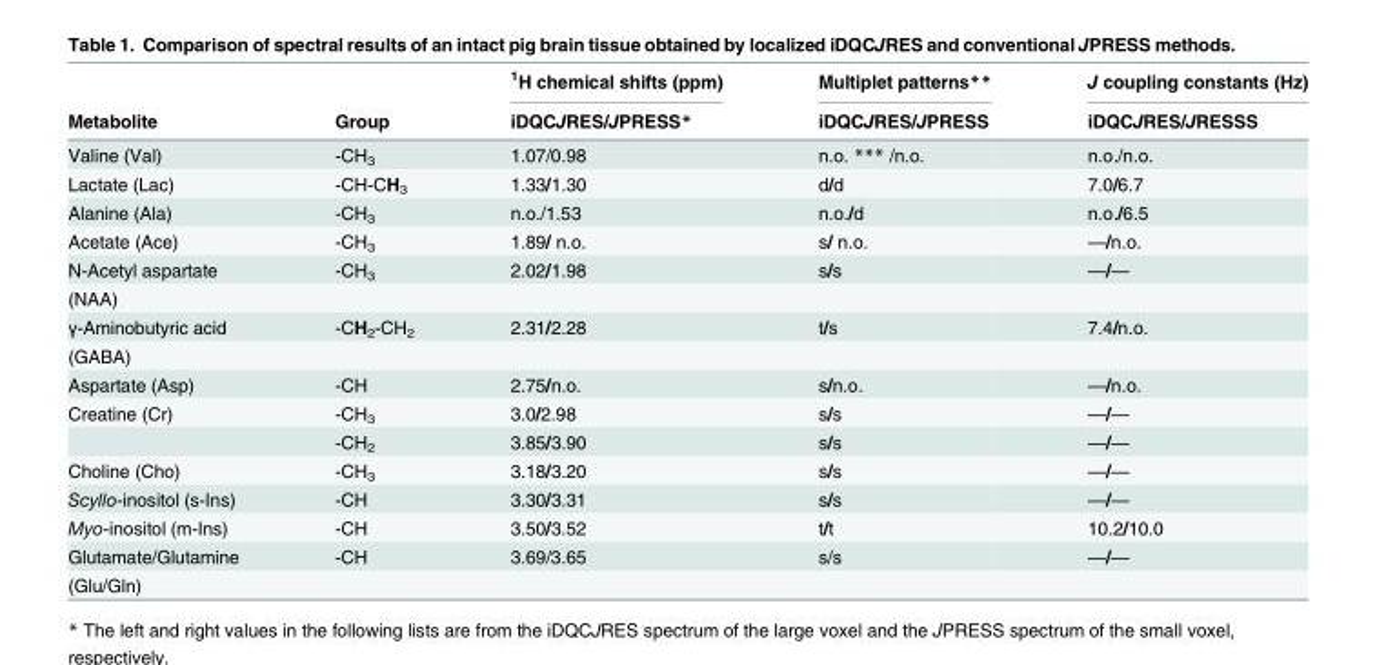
<table><thead><tr><td rowspan="2">Metabolite</td><td rowspan="2">Group</td><td rowspan="2">1H chemical shifts (ppm) iDQCJRES/JPRESS*</td><td rowspan="2">Multiplet patterns** iDQCJRES/JPRESS</td><td rowspan="2">J coupling constants (Hz) iDQCJRES/JRESSS</td></tr><tr></tr></thead><tbody><tr><td>Valine (Val)</td><td>-CH<sub>3</sub></td><td>1.07/0.98</td><td>n.o. *** /n.o.</td><td>n.o./n.o.</td></tr><tr><td>Lactate (Lac)</td><td>-CH-CH<sub>3</sub></td><td>1.33/1.30</td><td>d/d</td><td>7.0/6.7</td></tr><tr><td>Alanine (Ala)</td><td>-CH<sub>3</sub></td><td>n.o./1.53</td><td>n.o./d</td><td>n.o./6.5</td></tr><tr><td>Acetate (Ace)</td><td>-CH<sub>3</sub></td><td>1.89/ n.o.</td><td>s/ n.o.</td><td>—/n.o.</td></tr><tr><td>N-Acetyl aspartate</td><td>-CH<sub>3</sub></td><td>2.02/1.98</td><td>s/s</td><td>—/—</td></tr><tr><td colspan="5">(NAA)</td></tr><tr><td>γ-Aminobutyric acid</td><td>-CH<sub>2</sub>-CH<sub>2</sub></td><td>2.31/2.28</td><td>t/s</td><td>7.4/n.o.</td></tr><tr><td colspan="5">(GABA)</td></tr><tr><td>Aspartate (Asp)</td><td>-CH</td><td>2.75/n.o.</td><td>s/n.o.</td><td>—/n.o.</td></tr><tr><td rowspan="2">Creatine (Cr)</td><td>-CH<sub>3</sub></td><td>3.0/2.98</td><td>s/s</td><td>—/—</td></tr><tr><td>-CH<sub>2</sub></td><td>3.85/3.90</td><td>s/s</td><td>—/—</td></tr><tr><td>Choline (Cho)</td><td>-CH<sub>3</sub></td><td>3.18/3.20</td><td>s/s</td><td>—/—</td></tr><tr><td>Scyllo-inositol (s-Ins)</td><td>-CH</td><td>3.30/3.31</td><td>s/s</td><td>—/—</td></tr><tr><td>Myo-inositol (m-Ins)</td><td>-CH</td><td>3.50/3.52</td><td>t/t</td><td>10.2/10.0</td></tr><tr><td>Glutamate/Glutamine</td><td>-CH</td><td>3.69/3.65</td><td>s/s</td><td>—/—</td></tr><tr><td>(Glu/Gln)</td><td></td><td></td><td></td><td></td></tr></tbody></table>